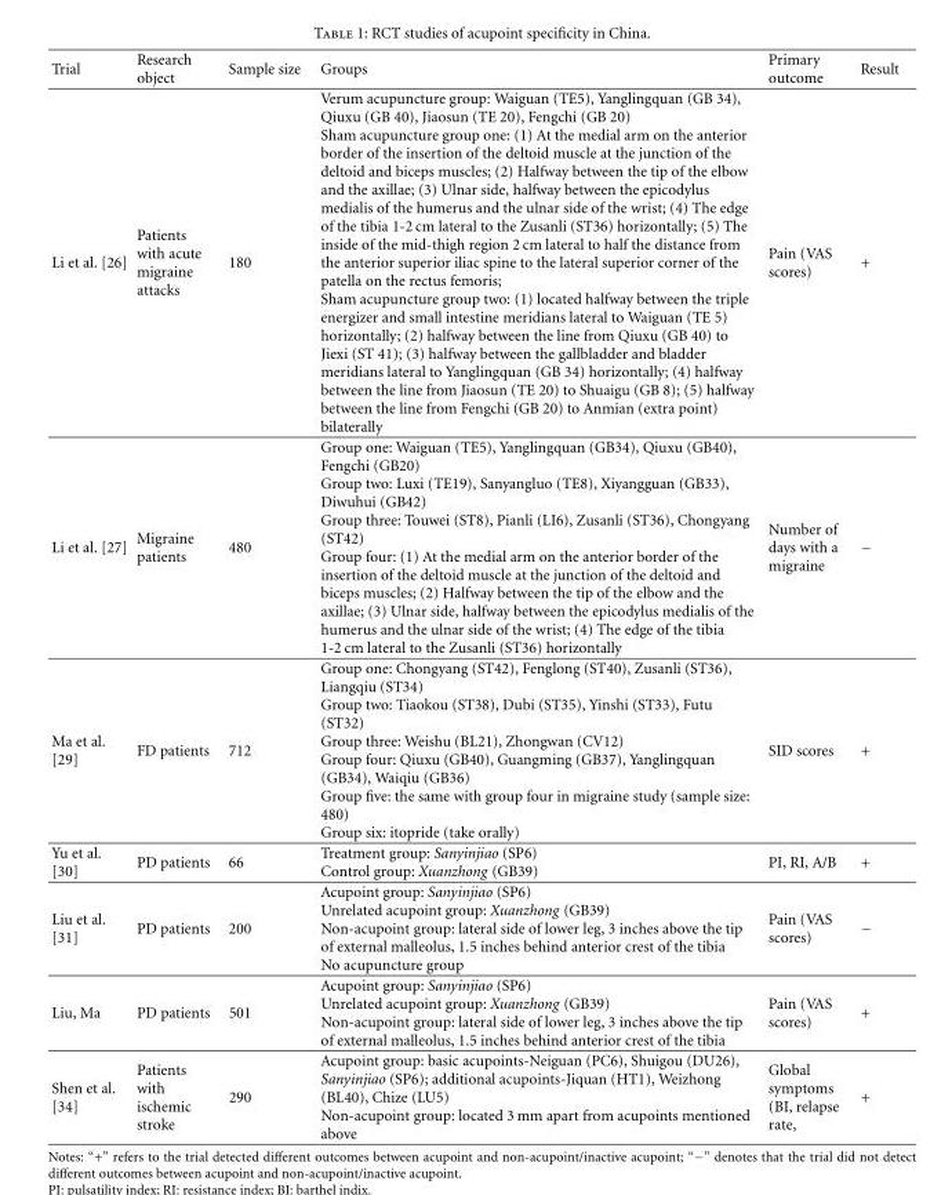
<table><thead><tr><td>Trial</td><td>Research object</td><td>Sample size</td><td>Groups</td><td>Primary outcome</td><td>Result</td></tr></thead><tbody><tr><td>Li et al. [26]</td><td>Patients with acute migraine attacks</td><td>180</td><td>Verum acupuncture group: Waiguan (TE5), Yanglingquan (GB 34), Qiuxu (GB 40), Jiaosun (TE 20), Fengchi (GB 20) Sham acupuncture group one: (1) At the medial arm on the anterior border of the insertion of the deltoid muscle at the junction of the deltoid and biceps muscles; (2) Halfway between the tip of the elbow and the axillae; (3) Ulnar side, halfway between the epicodylus medialis of the humerus and the ulnar side of the wrist; (4) The edge of the tibia 1-2 cm lateral to the Zusanli (ST36) horizontally; (5) The inside of the mid-thigh region 2 cm lateral to half the distance from the anterior superior iliac spine to the lateral superior corner of the patella on the rectus femoris; Sham acupuncture group two: (1) located halfway between the triple energizer and small intestine meridians lateral to Waiguan (TE 5) horizontally; (2) halfway between the line from Qiuxu (GB 40) to Jiexi (ST 41); (3) halfway between the gallbladder and bladder meridians lateral to Yanglingquan (GB 34) horizontally; (4) halfway between the line from Jiaosun (TE 20) to Shuaigu (GB 8); (5) halfway between the line from Fengchi (GB 20) to Anmian (extra point) bilaterally</td><td>Pain (VAS scores)</td><td>+</td></tr><tr><td>Li et al. [27]</td><td>Migraine patients</td><td>480</td><td>Group one: Waiguan (TE5), Yanglingquan (GB34), Qiuxu (GB40), Fengchi (GB20) Group two: Luxi (TE19), Sanyangluo (TE8), Xiyangguan (GB33), Diwuhui (GB42) Group three: Touwei (ST8), Pianli (LI6), Zusanli (ST36), Chongyang (ST42) Group four: (1) At the medial arm on the anterior border of the insertion of the deltoid muscle at the junction of the deltoid and biceps muscles; (2) Halfway between the tip of the elbow and the axillae; (3) Ulnar side, halfway between the epicodylus medialis of the humerus and the ulnar side of the wrist; (4) The edge of the tibia 1-2 cm lateral to the Zusanli (ST36) horizontally</td><td>Number of days with a migraine</td><td>−</td></tr><tr><td>Ma et al. [29]</td><td>FD patients</td><td>712</td><td>Group one: Chongyang (ST42), Fenglong (ST40), Zusanli (ST36), Liangqiu (ST34) Group two: Tiaokou (ST38), Dubi (ST35), Yinshi (ST33), Futu (ST32) Group three: Weishu (BL21), Zhongwan (CV12) Group four: Qiuxu (GB40), Guangming (GB37), Yanglingquan (GB34), Waiqiu (GB36) Group five: the same with group four in migraine study (sample size: 480) Group six: itopride (take orally)</td><td>SID scores</td><td>+</td></tr><tr><td>Yu et al. [30]</td><td>PD patients</td><td>66</td><td>Treatment group: Sanyinjiao (SP6) Control group: Xuanzhong (GB39)</td><td>PI, RI, A/B</td><td>+</td></tr><tr><td>Liu et al. [31]</td><td>PD patients</td><td>200</td><td>Acupoint group: Sanyinjiao (SP6) Unrelated acupoint group: Xuanzhong (GB39) Non-acupoint group: lateral side of lower leg, 3 inches above the tip of external malleolus, 1.5 inches behind anterior crest of the tibia No acupuncture group</td><td>Pain (VAS scores)</td><td>−</td></tr><tr><td>Liu, Ma</td><td>PD patients</td><td>501</td><td>Acupoint group: Sanyinjiao (SP6) Unrelated acupoint group: Xuanzhong (GB39) Non-acupoint group: lateral side of lower leg, 3 inches above the tip of external malleolus, 1.5 inches behind anterior crest of the tibia</td><td>Pain (VAS scores)</td><td>+</td></tr><tr><td>Shen et al. [34]</td><td>Patients with ischemic stroke</td><td>290</td><td>Acupoint group: basic acupoints-Neiguan (PC6), Shuigou (DU26), Sanyinjiao (SP6); additional acupoints-Jiquan (HT1), Weizhong (BL40), Chize (LU5) Non-acupoint group: located 3 mm apart from acupoints mentioned above</td><td>Global symptoms (BI, relapse rate,</td><td>+</td></tr></tbody></table>